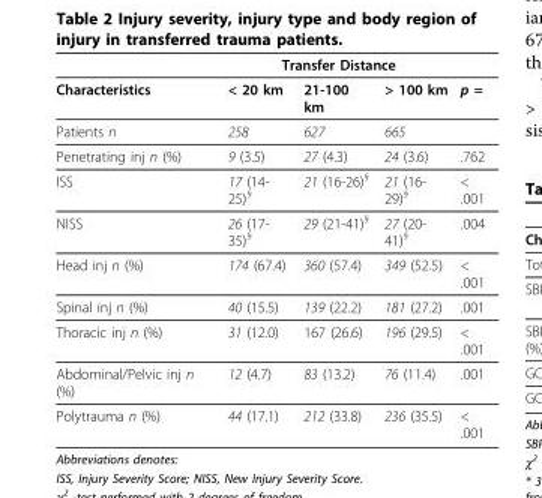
<table><thead><tr><td rowspan="2">Characteristics</td><td colspan="3">Transfer Distance</td><td rowspan="2">p =</td></tr><tr><td>&lt; 20 km</td><td>21-100 km</td><td>&gt; 100 km</td></tr></thead><tbody><tr><td>Patients n</td><td>258</td><td>627</td><td>665</td><td></td></tr><tr><td>Penetrating inj n (%)</td><td>9 (3.5)</td><td>27 (4.3)</td><td>24 (3.6)</td><td>.762</td></tr><tr><td>ISS</td><td>17 (14- 25)<sup>§</sup></td><td>21 (16-26)<sup>§</sup></td><td>21 (16- 29)<sup>§</sup></td><td>&lt; .001</td></tr><tr><td>NISS</td><td>26 (17- 35)<sup>§</sup></td><td>29 (21-41)<sup>§</sup></td><td>27 (20- 41)<sup>§</sup></td><td>.004</td></tr><tr><td>Head inj n (%)</td><td>174 (67.4)</td><td>360 (57.4)</td><td>349 (52.5)</td><td>&lt; .001</td></tr><tr><td>Spinal inj n (%)</td><td>40 (15.5)</td><td>139 (22.2)</td><td>181 (27.2)</td><td>.001</td></tr><tr><td>Thoracic inj n (%)</td><td>31 (12.0)</td><td>167 (26.6)</td><td>196 (29.5)</td><td>&lt; .001</td></tr><tr><td>Abdominal/Pelvic inj n (%)</td><td>12 (4.7)</td><td>83 (13.2)</td><td>76 (11.4)</td><td>.001</td></tr><tr><td>Polytrauma n (%)</td><td>44 (17.1)</td><td>212 (33.8)</td><td>236 (35.5)</td><td>&lt; .001</td></tr></tbody></table>